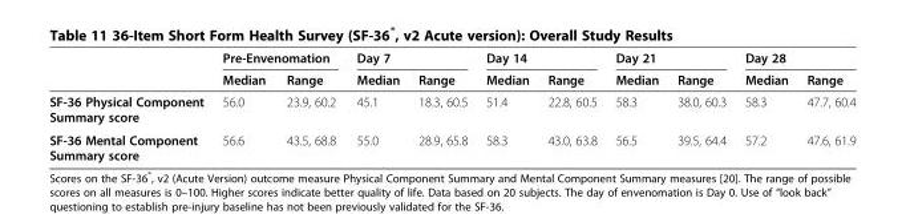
<table><thead><tr><td rowspan="2"></td><td colspan="2">Pre-Envenomation</td><td colspan="2">Day 7</td><td colspan="2">Day 14</td><td colspan="2">Day 21</td><td colspan="2">Day 28</td></tr><tr><td>Median</td><td>Range</td><td>Median</td><td>Range</td><td>Median</td><td>Range</td><td>Median</td><td>Range</td><td>Median</td><td>Range</td></tr></thead><tbody><tr><td>SF-36 Physical Component Summary score</td><td>56.0</td><td>23.9, 60.2</td><td>45.1</td><td>18.3, 60.5</td><td>51.4</td><td>22.8, 60.5</td><td>58.3</td><td>38.0, 60.3</td><td>58.3</td><td>47.7, 60.4</td></tr><tr><td>SF-36 Mental Component Summary score</td><td>56.6</td><td>43.5, 68.8</td><td>55.0</td><td>28.9, 65.8</td><td>58.3</td><td>43.0, 63.8</td><td>56.5</td><td>39.5, 64.4</td><td>57.2</td><td>47.6, 61.9</td></tr></tbody></table>